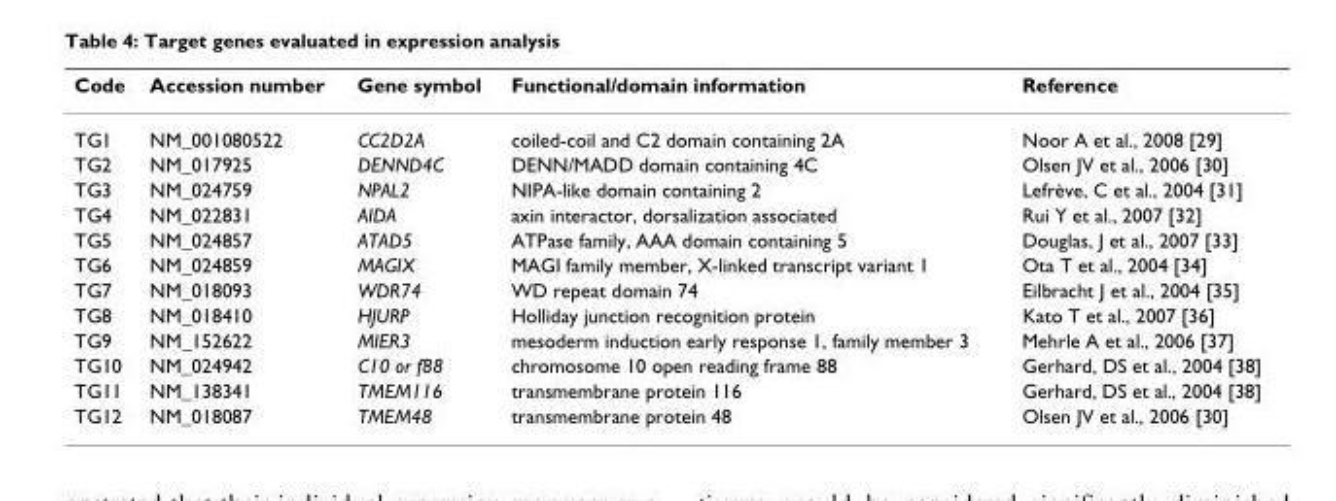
<table><thead><tr><td>Code</td><td>Accession number</td><td>Gene symbol</td><td>Functional/domain information</td><td>Reference</td></tr></thead><tbody><tr><td>TG1</td><td>NM_001080522</td><td>CC2D2A</td><td>coiled-coil and C2 domain containing 2A</td><td>Noor A et al., 2008 [29]</td></tr><tr><td>TG2</td><td>NM_017925</td><td>DENND4C</td><td>DENN/MADD domain containing 4C</td><td>Olsen JV et al., 2006 [30]</td></tr><tr><td>TG3</td><td>NM_024759</td><td>NPAL2</td><td>NIPA-like domain containing 2</td><td>Lefrève, C et al., 2004 [31]</td></tr><tr><td>TG4</td><td>NM_022831</td><td>AIDA</td><td>axin interactor, dorsalization associated</td><td>Rui Y et al., 2007 [32]</td></tr><tr><td>TG5</td><td>NM_024857</td><td>ATAD5</td><td>ATPase family, AAA domain containing 5</td><td>Douglas, J et al., 2007 [33]</td></tr><tr><td>TG6</td><td>NM_024859</td><td>MAGIX</td><td>MAGI family member, X-linked transcript variant 1</td><td>Ota T et al., 2004 [34]</td></tr><tr><td>TG7</td><td>NM_018093</td><td>WDR74</td><td>WD repeat domain 74</td><td>Eilbracht J et al., 2004 [35]</td></tr><tr><td>TG8</td><td>NM_018410</td><td>HJURP</td><td>Holliday junction recognition protein</td><td>Kato T et al., 2007 [36]</td></tr><tr><td>TG9</td><td>NM_152622</td><td>MIER3</td><td>mesoderm induction early response 1, family member 3</td><td>Mehrle A et al., 2006 [37]</td></tr><tr><td>TG10</td><td>NM_024942</td><td>C10 or f88</td><td>chromosome 10 open reading frame 88</td><td>Gerhard, DS et al., 2004 [38]</td></tr><tr><td>TG11</td><td>NM_138341</td><td>TMEM116</td><td>transmembrane protein 116</td><td>Gerhard, DS et al., 2004 [38]</td></tr><tr><td>TG12</td><td>NM_018087</td><td>TMEM48</td><td>transmembrane protein 48</td><td>Olsen JV et al., 2006 [30]</td></tr></tbody></table>